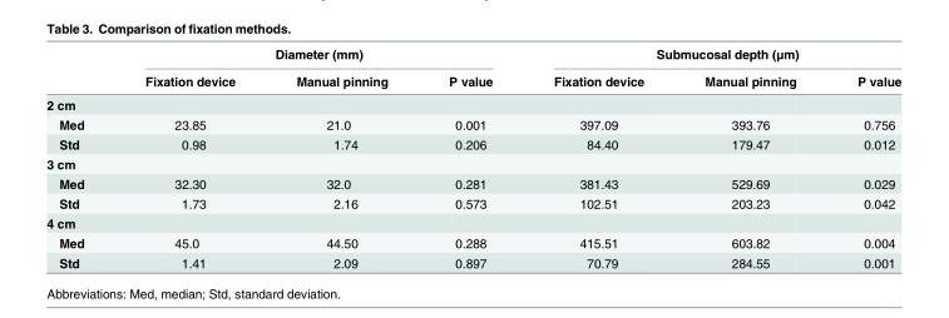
<table><thead><tr><td rowspan="2"></td><td colspan="3">Diameter (mm)</td><td colspan="3">Submucosal depth (μm)</td></tr><tr><td>Fixation device</td><td>Manual pinning</td><td>P value</td><td>Fixation device</td><td>Manual pinning</td><td>P value</td></tr></thead><tbody><tr><td colspan="7">2 cm</td></tr><tr><td>Med</td><td>23.85</td><td>21.0</td><td>0.001</td><td>397.09</td><td>393.76</td><td>0.756</td></tr><tr><td>Std</td><td>0.98</td><td>1.74</td><td>0.206</td><td>84.40</td><td>179.47</td><td>0.012</td></tr><tr><td colspan="7">3 cm</td></tr><tr><td>Med</td><td>32.30</td><td>32.0</td><td>0.281</td><td>381.43</td><td>529.69</td><td>0.029</td></tr><tr><td>Std</td><td>1.73</td><td>2.16</td><td>0.573</td><td>102.51</td><td>203.23</td><td>0.042</td></tr><tr><td colspan="7">4 cm</td></tr><tr><td>Med</td><td>45.0</td><td>44.50</td><td>0.288</td><td>415.51</td><td>603.82</td><td>0.004</td></tr><tr><td>Std</td><td>1.41</td><td>2.09</td><td>0.897</td><td>70.79</td><td>284.55</td><td>0.001</td></tr></tbody></table>